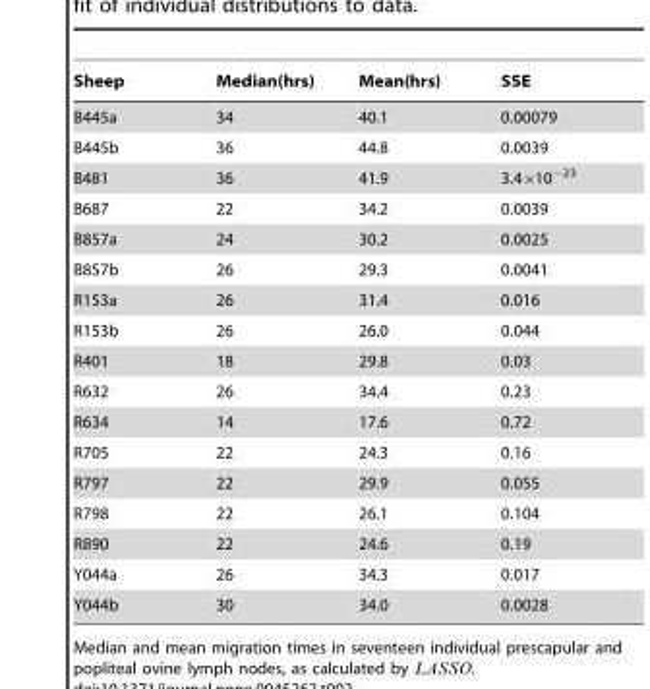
<table><thead><tr><td>Sheep</td><td>Median(hrs)</td><td>Mean(hrs)</td><td>SSE</td></tr></thead><tbody><tr><td>B445a</td><td>34</td><td>40.1</td><td>0.00079</td></tr><tr><td>B445b</td><td>36</td><td>44.8</td><td>0.0039</td></tr><tr><td>B481</td><td>36</td><td>41.9</td><td>3.4×10<sup>−23</sup></td></tr><tr><td>B687</td><td>22</td><td>34.2</td><td>0.0039</td></tr><tr><td>B857a</td><td>24</td><td>30.2</td><td>0.0025</td></tr><tr><td>B857b</td><td>26</td><td>29.3</td><td>0.0041</td></tr><tr><td>R153a</td><td>26</td><td>31.4</td><td>0.016</td></tr><tr><td>R153b</td><td>26</td><td>26.0</td><td>0.044</td></tr><tr><td>R401</td><td>18</td><td>29.8</td><td>0.03</td></tr><tr><td>R632</td><td>26</td><td>34.4</td><td>0.23</td></tr><tr><td>R634</td><td>14</td><td>17.6</td><td>0.72</td></tr><tr><td>R705</td><td>22</td><td>24.3</td><td>0.16</td></tr><tr><td>R797</td><td>22</td><td>29.9</td><td>0.055</td></tr><tr><td>R798</td><td>22</td><td>26.1</td><td>0.104</td></tr><tr><td>R890</td><td>22</td><td>24.6</td><td>0.19</td></tr><tr><td>Y044a</td><td>26</td><td>34.3</td><td>0.017</td></tr><tr><td>Y044b</td><td>30</td><td>34.0</td><td>0.0028</td></tr></tbody></table>